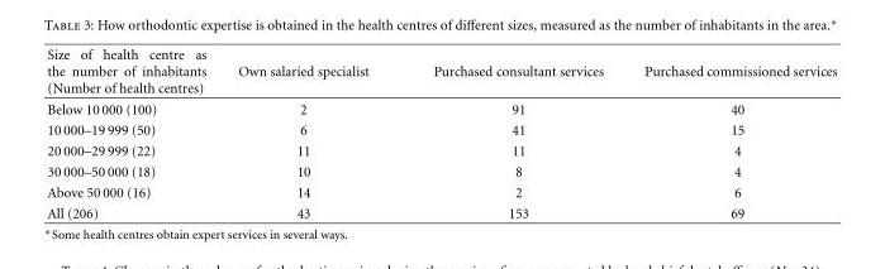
<table><thead><tr><td>Size of health centre as the number of inhabitants (Number of health centres)</td><td>Own salaried specialist</td><td>Purchased consultant services</td><td>Purchased commissioned services</td></tr></thead><tbody><tr><td>Below 10 000 (100)</td><td>2</td><td>91</td><td>40</td></tr><tr><td>10 000–19 999 (50)</td><td>6</td><td>41</td><td>15</td></tr><tr><td>20 000–29 999 (22)</td><td>11</td><td>11</td><td>4</td></tr><tr><td>30 000–50 000 (18)</td><td>10</td><td>8</td><td>4</td></tr><tr><td>Above 50 000 (16)</td><td>14</td><td>2</td><td>6</td></tr><tr><td>All (206)</td><td>43</td><td>153</td><td>69</td></tr></tbody></table>